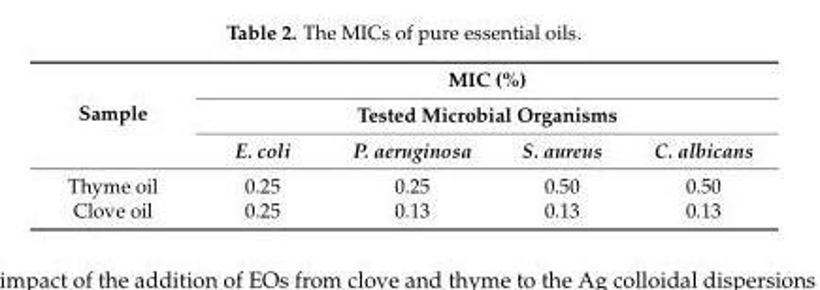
<table><thead><tr><td rowspan="3">Sample</td><td rowspan="2" colspan="4">MIC (%) Tested Microbial Organisms</td></tr><tr></tr><tr><td>E. coli</td><td>P. aeruginosa</td><td>S. aureus</td><td>C. albicans</td></tr></thead><tbody><tr><td>Thyme oil</td><td>0.25</td><td>0.25</td><td>0.50</td><td>0.50</td></tr><tr><td>Clove oil</td><td>0.25</td><td>0.13</td><td>0.13</td><td>0.13</td></tr></tbody></table>